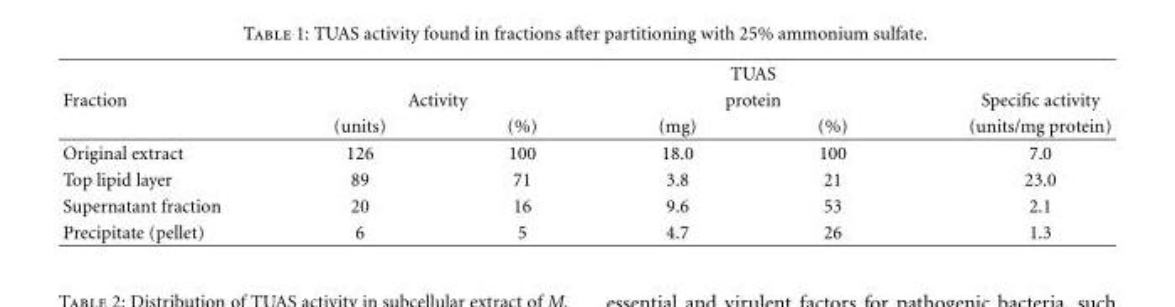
<table><thead><tr><td rowspan="3">Fraction</td><td></td><td></td><td rowspan="2" colspan="2">TUAS protein</td><td rowspan="3">Specific activity (units/mg protein)</td></tr><tr><td colspan="2">Activity</td></tr><tr><td>(units)</td><td>(%)</td><td>(mg)</td><td>(%)</td></tr></thead><tbody><tr><td>Original extract</td><td>126</td><td>100</td><td>18.0</td><td>100</td><td>7.0</td></tr><tr><td>Top lipid layer</td><td>89</td><td>71</td><td>3.8</td><td>21</td><td>23.0</td></tr><tr><td>Supernatant fraction</td><td>20</td><td>16</td><td>9.6</td><td>53</td><td>2.1</td></tr><tr><td>Precipitate (pellet)</td><td>6</td><td>5</td><td>4.7</td><td>26</td><td>1.3</td></tr></tbody></table>